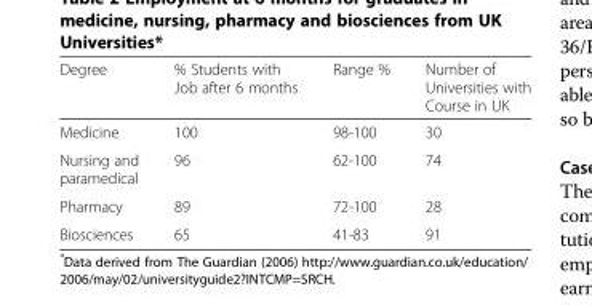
<table><thead><tr><td>Degree</td><td>% Students with Job after 6 months</td><td>Range %</td><td>Number of Universities with Course in UK</td></tr></thead><tbody><tr><td>Medicine</td><td>100</td><td>98-100</td><td>30</td></tr><tr><td>Nursing and paramedical</td><td>96</td><td>62-100</td><td>74</td></tr><tr><td>Pharmacy</td><td>89</td><td>72-100</td><td>28</td></tr><tr><td>Biosciences</td><td>65</td><td>41-83</td><td>91</td></tr></tbody></table>